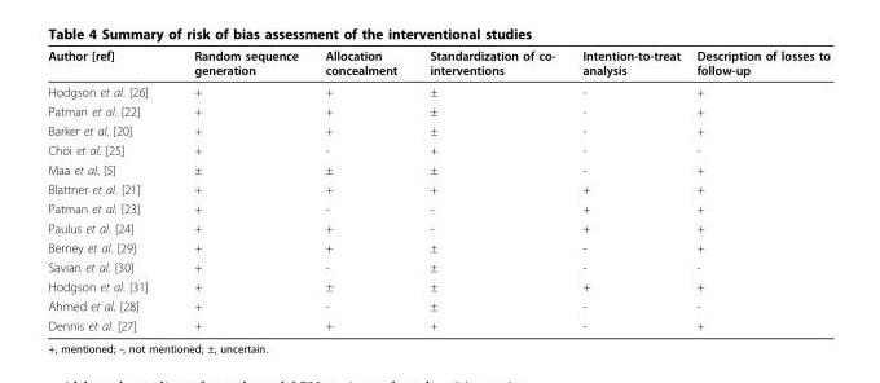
<table><thead><tr><td>Author [ref]</td><td>Random sequence generation</td><td>Allocation concealment</td><td>Standardization of co- interventions</td><td>Intention-to-treat analysis</td><td>Description of losses to follow-up</td></tr></thead><tbody><tr><td>Hodgson et al. [26]</td><td>+</td><td>+</td><td>±</td><td>-</td><td>+</td></tr><tr><td>Patman et al. [22]</td><td>+</td><td>+</td><td>±</td><td>-</td><td>+</td></tr><tr><td>Barker et al. [20]</td><td>+</td><td>+</td><td>±</td><td>-</td><td>+</td></tr><tr><td>Choi et al. [25]</td><td>+</td><td>-</td><td>+</td><td>-</td><td>-</td></tr><tr><td>Maa et al. [5]</td><td>±</td><td>±</td><td>±</td><td>-</td><td>+</td></tr><tr><td>Blattner et al. [21]</td><td>+</td><td>+</td><td>+</td><td>+</td><td>+</td></tr><tr><td>Patman et al. [23]</td><td>+</td><td>-</td><td>-</td><td>+</td><td>+</td></tr><tr><td>Paulus et al. [24]</td><td>+</td><td>+</td><td>-</td><td>+</td><td>+</td></tr><tr><td>Berney et al. [29]</td><td>+</td><td>+</td><td>±</td><td>-</td><td>+</td></tr><tr><td>Savian et al. [30]</td><td>+</td><td>-</td><td>±</td><td>-</td><td>-</td></tr><tr><td>Hodgson et al. [31]</td><td>+</td><td>±</td><td>±</td><td>+</td><td>+</td></tr><tr><td>Ahmed et al. [28]</td><td>+</td><td>-</td><td>±</td><td>-</td><td>-</td></tr><tr><td>Dennis et al. [27]</td><td>+</td><td>+</td><td>+</td><td>-</td><td>+</td></tr></tbody></table>